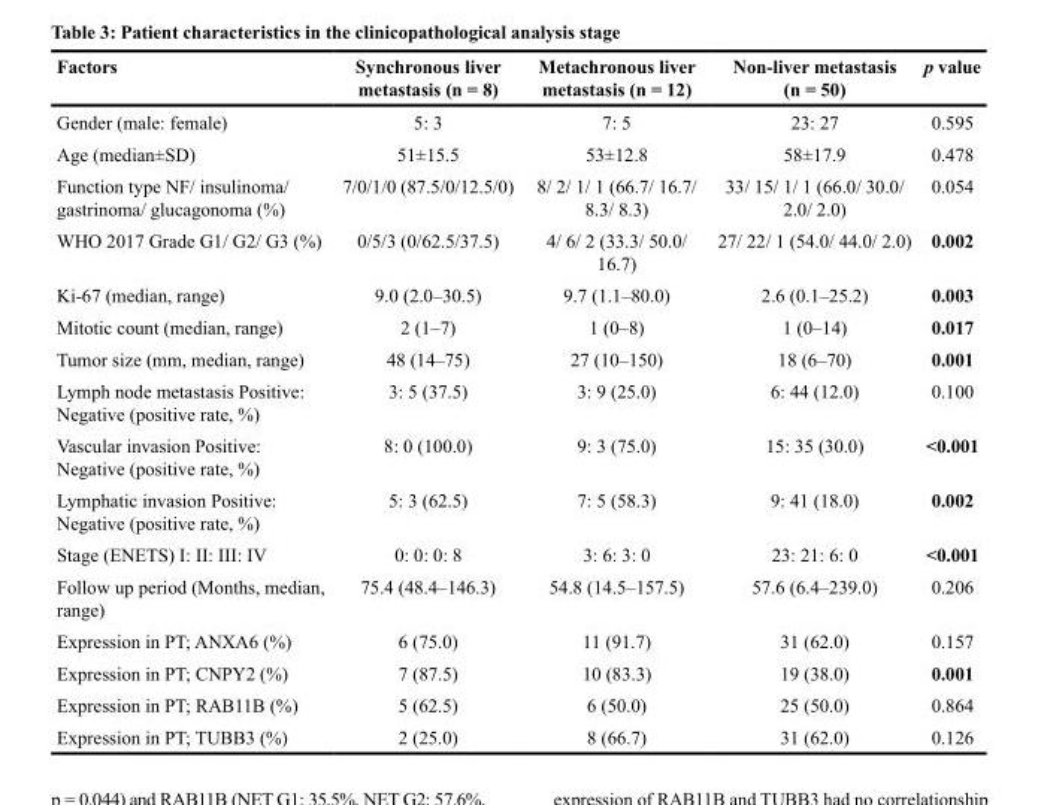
<table><thead><tr><td>Factors</td><td>Synchronous liver metastasis (n = 8)</td><td>Metachronous liver metastasis (n = 12)</td><td>Non-liver metastasis (n = 50)</td><td>p value</td></tr></thead><tbody><tr><td>Gender (male: female)</td><td>5: 3</td><td>7: 5</td><td>23: 27</td><td>0.595</td></tr><tr><td>Age (median±SD)</td><td>51±15.5</td><td>53±12.8</td><td>58±17.9</td><td>0.478</td></tr><tr><td>Function type NF/ insulinoma/ gastrinoma/ glucagonoma (%)</td><td>7/0/1/0 (87.5/0/12.5/0)</td><td>8/ 2/ 1/ 1 (66.7/ 16.7/ 8.3/ 8.3)</td><td>33/ 15/ 1/ 1 (66.0/ 30.0/ 2.0/ 2.0)</td><td>0.054</td></tr><tr><td>WHO 2017 Grade G1/ G2/ G3 (%)</td><td>0/5/3 (0/62.5/37.5)</td><td>4/ 6/ 2 (33.3/ 50.0/ 16.7)</td><td>27/ 22/ 1 (54.0/ 44.0/ 2.0)</td><td>0.002</td></tr><tr><td>Ki-67 (median, range)</td><td>9.0 (2.0–30.5)</td><td>9.7 (1.1–80.0)</td><td>2.6 (0.1–25.2)</td><td>0.003</td></tr><tr><td>Mitotic count (median, range)</td><td>2 (1–7)</td><td>1 (0–8)</td><td>1 (0–14)</td><td>0.017</td></tr><tr><td>Tumor size (mm, median, range)</td><td>48 (14–75)</td><td>27 (10–150)</td><td>18 (6–70)</td><td>0.001</td></tr><tr><td>Lymph node metastasis Positive: Negative (positive rate, %)</td><td>3: 5 (37.5)</td><td>3: 9 (25.0)</td><td>6: 44 (12.0)</td><td>0.100</td></tr><tr><td>Vascular invasion Positive: Negative (positive rate, %)</td><td>8: 0 (100.0)</td><td>9: 3 (75.0)</td><td>15: 35 (30.0)</td><td>&lt;0.001</td></tr><tr><td>Lymphatic invasion Positive: Negative (positive rate, %)</td><td>5: 3 (62.5)</td><td>7: 5 (58.3)</td><td>9: 41 (18.0)</td><td>0.002</td></tr><tr><td>Stage (ENETS) I: II: III: IV</td><td>0: 0: 0: 8</td><td>3: 6: 3: 0</td><td>23: 21: 6: 0</td><td>&lt;0.001</td></tr><tr><td>Follow up period (Months, median, range)</td><td>75.4 (48.4–146.3)</td><td>54.8 (14.5–157.5)</td><td>57.6 (6.4–239.0)</td><td>0.206</td></tr><tr><td>Expression in PT; ANXA6 (%)</td><td>6 (75.0)</td><td>11 (91.7)</td><td>31 (62.0)</td><td>0.157</td></tr><tr><td>Expression in PT; CNPY2 (%)</td><td>7 (87.5)</td><td>10 (83.3)</td><td>19 (38.0)</td><td>0.001</td></tr><tr><td>Expression in PT; RAB11B (%)</td><td>5 (62.5)</td><td>6 (50.0)</td><td>25 (50.0)</td><td>0.864</td></tr><tr><td>Expression in PT; TUBB3 (%)</td><td>2 (25.0)</td><td>8 (66.7)</td><td>31 (62.0)</td><td>0.126</td></tr></tbody></table>